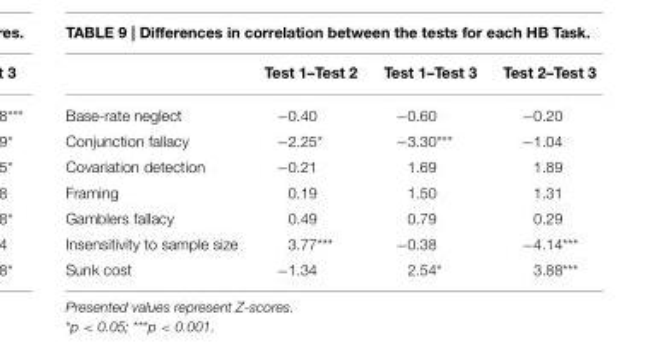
<table><thead><tr><td></td><td>Test 1–Test 2</td><td>Test 1–Test 3</td><td>Test 2–Test 3</td></tr></thead><tbody><tr><td>Base-rate neglect</td><td>−0.40</td><td>−0.60</td><td>−0.20</td></tr><tr><td>Conjunction fallacy</td><td>−2.25*</td><td>−3.30***</td><td>−1.04</td></tr><tr><td>Covariation detection</td><td>−0.21</td><td>1.69</td><td>1.89</td></tr><tr><td>Framing</td><td>0.19</td><td>1.50</td><td>1.31</td></tr><tr><td>Gamblers fallacy</td><td>0.49</td><td>0.79</td><td>0.29</td></tr><tr><td>Insensitivity to sample size</td><td>3.77***</td><td>−0.38</td><td>−4.14***</td></tr><tr><td>Sunk cost</td><td>−1.34</td><td>2.54*</td><td>3.88***</td></tr></tbody></table>